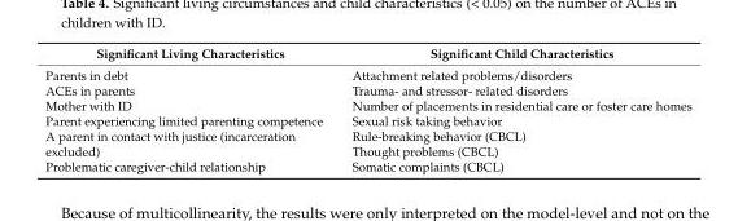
<table><thead><tr><td>Significant Living Characteristics</td><td>Significant Child Characteristics</td></tr></thead><tbody><tr><td>Parents in debt</td><td>Attachment related problems/disorders</td></tr><tr><td>ACEs in parents</td><td>Trauma- and stressor- related disorders</td></tr><tr><td>Mother with ID</td><td>Number of placements in residential care or foster care homes</td></tr><tr><td>Parent experiencing limited parenting competence</td><td>Sexual risk taking behavior</td></tr><tr><td>A parent in contact with justice (incarceration</td><td>Rule-breaking behavior (CBCL)</td></tr><tr><td>excluded)</td><td>Thought problems (CBCL)</td></tr><tr><td>Problematic caregiver-child relationship</td><td>Somatic complaints (CBCL)</td></tr></tbody></table>